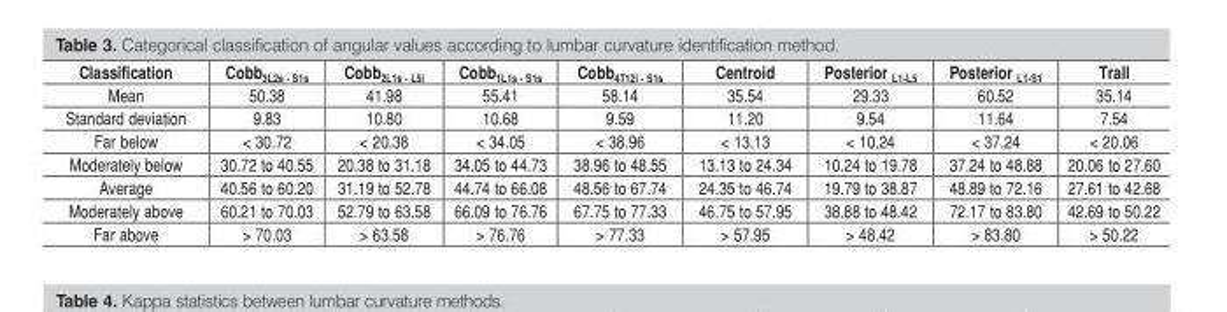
<table><thead><tr><td>Classification</td><td>Cobb<sub>3L2s - S1s</sub></td><td>Cobb<sub>2L1s - L5i</sub></td><td>Cobb<sub>1L1s - S1s</sub></td><td>Cobb<sub>4T12i - S1s</sub></td><td>Centroid</td><td>Posterior <sub>L1-L5</sub></td><td>Posterior <sub>L1-S1</sub></td><td>Trall</td></tr></thead><tbody><tr><td>Mean</td><td>50.38</td><td>41.98</td><td>55.41</td><td>58.14</td><td>35.54</td><td>29.33</td><td>60.52</td><td>35.14</td></tr><tr><td>Standard deviation</td><td>9.83</td><td>10.80</td><td>10.68</td><td>9.59</td><td>11.20</td><td>9.54</td><td>11.64</td><td>7.54</td></tr><tr><td>Far below</td><td>&lt; 30.72</td><td>&lt; 20.38</td><td>&lt; 34.05</td><td>&lt; 38.96</td><td>&lt; 13.13</td><td>&lt; 10.24</td><td>&lt; 37.24</td><td>&lt; 20.06</td></tr><tr><td>Moderately below</td><td>30.72 to 40.55</td><td>20.38 to 31.18</td><td>34.05 to 44.73</td><td>38.96 to 48.55</td><td>13.13 to 24.34</td><td>10.24 to 19.78</td><td>37.24 to 48.88</td><td>20.06 to 27.60</td></tr><tr><td>Average</td><td>40.56 to 60.20</td><td>31.19 to 52.78</td><td>44.74 to 66.08</td><td>48.56 to 67.74</td><td>24.35 to 46.74</td><td>19.79 to 38.87</td><td>48.89 to 72.16</td><td>27.61 to 42.68</td></tr><tr><td>Moderately above</td><td>60.21 to 70.03</td><td>52.79 to 63.58</td><td>66.09 to 76.76</td><td>67.75 to 77.33</td><td>46.75 to 57.95</td><td>38.88 to 48.42</td><td>72.17 to 83.80</td><td>42.69 to 50.22</td></tr><tr><td>Far above</td><td>&gt; 70.03</td><td>&gt; 63.58</td><td>&gt; 76.76</td><td>&gt; 77.33</td><td>&gt; 57.95</td><td>&gt; 48.42</td><td>&gt; 83.80</td><td>&gt; 50.22</td></tr></tbody></table>